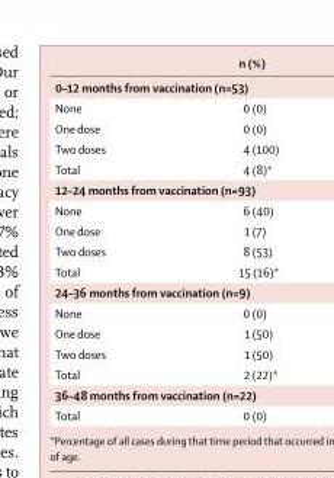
<table><thead><tr><td></td><td>n (%)</td></tr></thead><tbody><tr><td colspan="2">0–12 months from vaccination (n=53)</td></tr><tr><td>None</td><td>0 (0)</td></tr><tr><td>One dose</td><td>0 (0)</td></tr><tr><td>Two doses</td><td>4 (100)</td></tr><tr><td>Total</td><td>4 (8)*</td></tr><tr><td colspan="2">12–24 months from vaccination (n=93)</td></tr><tr><td>None</td><td>6 (40)</td></tr><tr><td>One dose</td><td>1 (7)</td></tr><tr><td>Two doses</td><td>8 (53)</td></tr><tr><td>Total</td><td>15 (16)*</td></tr><tr><td colspan="2">24–36 months from vaccination (n=9)</td></tr><tr><td>None</td><td>0 (0)</td></tr><tr><td>One dose</td><td>1 (50)</td></tr><tr><td>Two doses</td><td>1 (50)</td></tr><tr><td>Total</td><td>2 (22)*</td></tr><tr><td colspan="2">36–48 months from vaccination (n=22)</td></tr><tr><td>Total</td><td>0 (0)</td></tr></tbody></table>